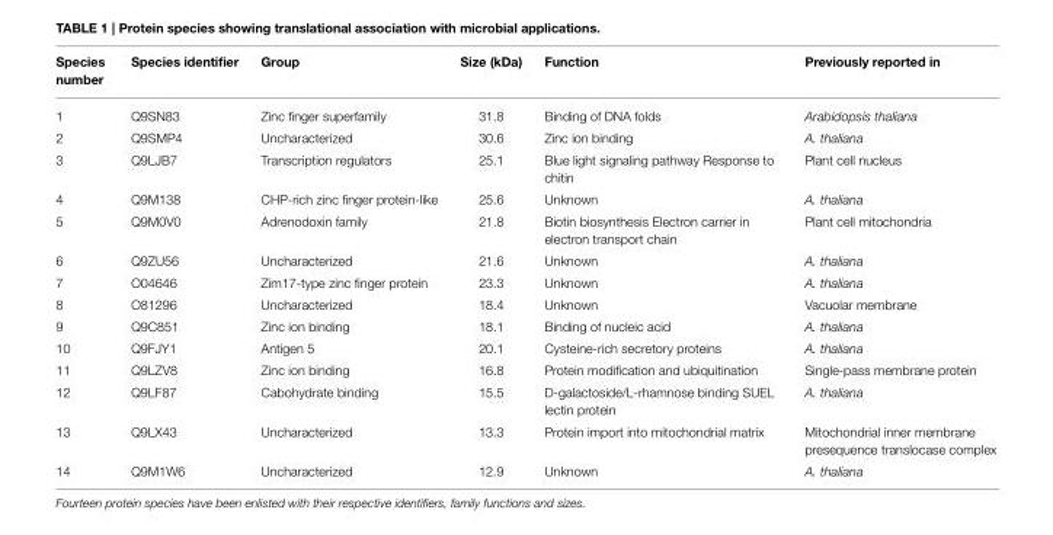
<table><thead><tr><td>Species number</td><td>Species identifier</td><td>Group</td><td>Size (kDa)</td><td>Function</td><td>Previously reported in</td></tr></thead><tbody><tr><td>1</td><td>Q9SN83</td><td>Zinc finger superfamily</td><td>31.8</td><td>Binding of DNA folds</td><td>Arabidopsis thaliana</td></tr><tr><td>2</td><td>Q9SMP4</td><td>Uncharacterized</td><td>30.6</td><td>Zinc ion binding</td><td>A. thaliana</td></tr><tr><td>3</td><td>Q9LJB7</td><td>Transcription regulators</td><td>25.1</td><td>Blue light signaling pathway Response to chitin</td><td>Plant cell nucleus</td></tr><tr><td>4</td><td>Q9M138</td><td>CHP-rich zinc finger protein-like</td><td>25.6</td><td>Unknown</td><td>A. thaliana</td></tr><tr><td>5</td><td>Q9M0V0</td><td>Adrenodoxin family</td><td>21.8</td><td>Biotin biosynthesis Electron carrier in electron transport chain</td><td>Plant cell mitochondria</td></tr><tr><td>6</td><td>Q9ZU56</td><td>Uncharacterized</td><td>21.6</td><td>Unknown</td><td>A. thaliana</td></tr><tr><td>7</td><td>O04646</td><td>Zim17-type zinc finger protein</td><td>23.3</td><td>Unknown</td><td>A. thaliana</td></tr><tr><td>8</td><td>O81296</td><td>Uncharacterized</td><td>18.4</td><td>Unknown</td><td>Vacuolar membrane</td></tr><tr><td>9</td><td>Q9C851</td><td>Zinc ion binding</td><td>18.1</td><td>Binding of nucleic acid</td><td>A. thaliana</td></tr><tr><td>10</td><td>Q9FJY1</td><td>Antigen 5</td><td>20.1</td><td>Cysteine-rich secretory proteins</td><td>A. thaliana</td></tr><tr><td>11</td><td>Q9LZV8</td><td>Zinc ion binding</td><td>16.8</td><td>Protein modification and ubiquitination</td><td>Single-pass membrane protein</td></tr><tr><td>12</td><td>Q9LF87</td><td>Cabohydrate binding</td><td>15.5</td><td>D-galactoside/L-rhamnose binding SUEL lectin protein</td><td>A. thaliana</td></tr><tr><td>13</td><td>Q9LX43</td><td>Uncharacterized</td><td>13.3</td><td>Protein import into mitochondrial matrix</td><td>Mitochondrial inner membrane presequence translocase complex</td></tr><tr><td>14</td><td>Q9M1W6</td><td>Uncharacterized</td><td>12.9</td><td>Unknown</td><td>A. thaliana</td></tr></tbody></table>